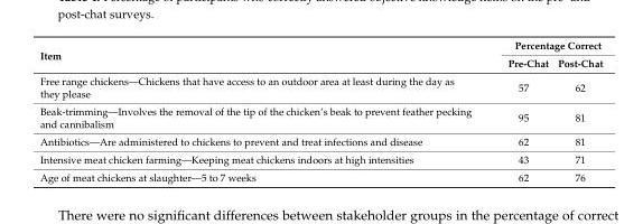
<table><thead><tr><td rowspan="2">Item</td><td colspan="2">Percentage Correct</td></tr><tr><td>Pre-Chat</td><td>Post-Chat</td></tr></thead><tbody><tr><td>Free range chickens—Chickens that have access to an outdoor area at least during the day as they please</td><td>57</td><td>62</td></tr><tr><td>Beak-trimming—Involves the removal of the tip of the chicken’s beak to prevent feather pecking and cannibalism</td><td>95</td><td>81</td></tr><tr><td>Antibiotics—Are administered to chickens to prevent and treat infections and disease</td><td>62</td><td>81</td></tr><tr><td>Intensive meat chicken farming—Keeping meat chickens indoors at high intensities</td><td>43</td><td>71</td></tr><tr><td>Age of meat chickens at slaughter—5 to 7 weeks</td><td>62</td><td>76</td></tr></tbody></table>